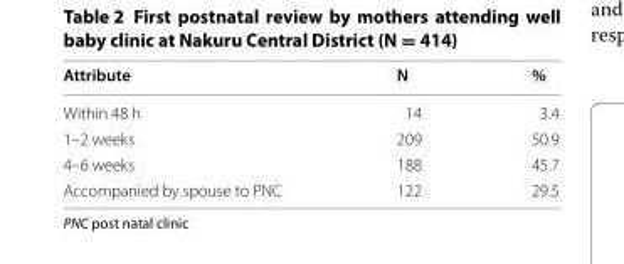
<table><thead><tr><td>Attribute</td><td>N</td><td>%</td></tr></thead><tbody><tr><td>Within 48 h</td><td>14</td><td>3.4</td></tr><tr><td>1–2 weeks</td><td>209</td><td>50.9</td></tr><tr><td>4–6 weeks</td><td>188</td><td>45.7</td></tr><tr><td>Accompanied by spouse to PNC</td><td>122</td><td>29.5</td></tr></tbody></table>